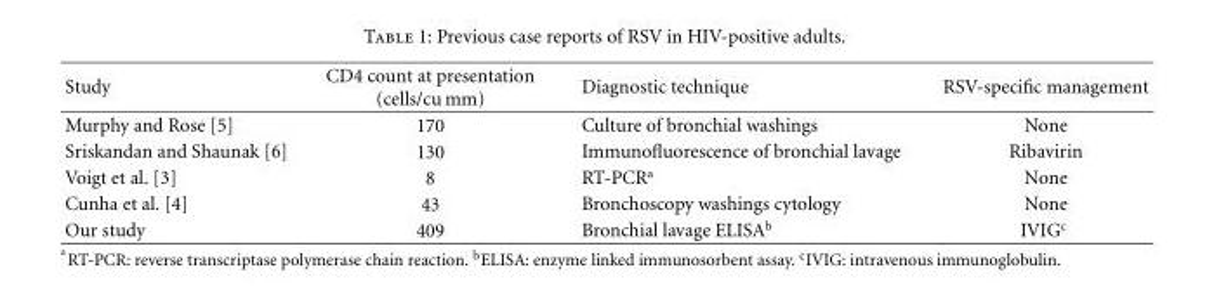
<table><thead><tr><td>Study</td><td>CD4 count at presentation (cells/cu mm)</td><td>Diagnostic technique</td><td>RSV-specific management</td></tr></thead><tbody><tr><td>Murphy and Rose [5]</td><td>170</td><td>Culture of bronchial washings</td><td>None</td></tr><tr><td>Sriskandan and Shaunak [6]</td><td>130</td><td>Immunofluorescence of bronchial lavage</td><td>Ribavirin</td></tr><tr><td>Voigt et al. [3]</td><td>8</td><td>RT-PCR<sup>a</sup></td><td>None</td></tr><tr><td>Cunha et al. [4]</td><td>43</td><td>Bronchoscopy washings cytology</td><td>None</td></tr><tr><td>Our study</td><td>409</td><td>Bronchial lavage ELISA<sup>b</sup></td><td>IVIG<sup>c</sup></td></tr></tbody></table>